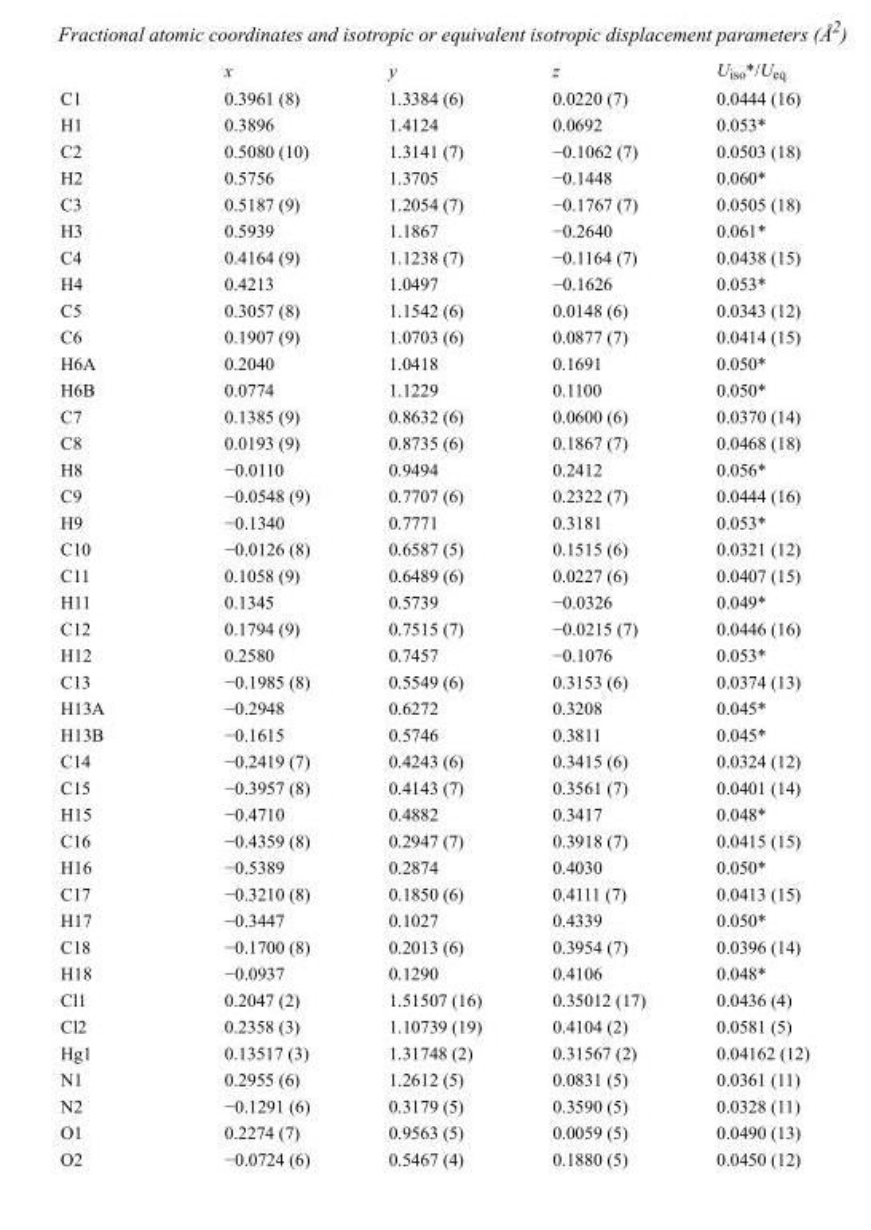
<table><thead><tr><td></td><td>x</td><td>y</td><td>z</td><td>U<sub>iso</sub>*/U<sub>eq</sub></td></tr></thead><tbody><tr><td>C1</td><td>0.3961 (8)</td><td>1.3384 (6)</td><td>0.0220 (7)</td><td>0.0444 (16)</td></tr><tr><td>H1</td><td>0.3896</td><td>1.4124</td><td>0.0692</td><td>0.053*</td></tr><tr><td>C2</td><td>0.5080 (10)</td><td>1.3141 (7)</td><td>−0.1062 (7)</td><td>0.0503 (18)</td></tr><tr><td>H2</td><td>0.5756</td><td>1.3705</td><td>−0.1448</td><td>0.060*</td></tr><tr><td>C3</td><td>0.5187 (9)</td><td>1.2054 (7)</td><td>−0.1767 (7)</td><td>0.0505 (18)</td></tr><tr><td>H3</td><td>0.5939</td><td>1.1867</td><td>−0.2640</td><td>0.061*</td></tr><tr><td>C4</td><td>0.4164 (9)</td><td>1.1238 (7)</td><td>−0.1164 (7)</td><td>0.0438 (15)</td></tr><tr><td>H4</td><td>0.4213</td><td>1.0497</td><td>−0.1626</td><td>0.053*</td></tr><tr><td>C5</td><td>0.3057 (8)</td><td>1.1542 (6)</td><td>0.0148 (6)</td><td>0.0343 (12)</td></tr><tr><td>C6</td><td>0.1907 (9)</td><td>1.0703 (6)</td><td>0.0877 (7)</td><td>0.0414 (15)</td></tr><tr><td>H6A</td><td>0.2040</td><td>1.0418</td><td>0.1691</td><td>0.050*</td></tr><tr><td>H6B</td><td>0.0774</td><td>1.1229</td><td>0.1100</td><td>0.050*</td></tr><tr><td>C7</td><td>0.1385 (9)</td><td>0.8632 (6)</td><td>0.0600 (6)</td><td>0.0370 (14)</td></tr><tr><td>C8</td><td>0.0193 (9)</td><td>0.8735 (6)</td><td>0.1867 (7)</td><td>0.0468 (18)</td></tr><tr><td>H8</td><td>−0.0110</td><td>0.9494</td><td>0.2412</td><td>0.056*</td></tr><tr><td>C9</td><td>−0.0548 (9)</td><td>0.7707 (6)</td><td>0.2322 (7)</td><td>0.0444 (16)</td></tr><tr><td>H9</td><td>−0.1340</td><td>0.7771</td><td>0.3181</td><td>0.053*</td></tr><tr><td>C10</td><td>−0.0126 (8)</td><td>0.6587 (5)</td><td>0.1515 (6)</td><td>0.0321 (12)</td></tr><tr><td>C11</td><td>0.1058 (9)</td><td>0.6489 (6)</td><td>0.0227 (6)</td><td>0.0407 (15)</td></tr><tr><td>H11</td><td>0.1345</td><td>0.5739</td><td>−0.0326</td><td>0.049*</td></tr><tr><td>C12</td><td>0.1794 (9)</td><td>0.7515 (7)</td><td>−0.0215 (7)</td><td>0.0446 (16)</td></tr><tr><td>H12</td><td>0.2580</td><td>0.7457</td><td>−0.1076</td><td>0.053*</td></tr><tr><td>C13</td><td>−0.1985 (8)</td><td>0.5549 (6)</td><td>0.3153 (6)</td><td>0.0374 (13)</td></tr><tr><td>H13A</td><td>−0.2948</td><td>0.6272</td><td>0.3208</td><td>0.045*</td></tr><tr><td>H13B</td><td>−0.1615</td><td>0.5746</td><td>0.3811</td><td>0.045*</td></tr><tr><td>C14</td><td>−0.2419 (7)</td><td>0.4243 (6)</td><td>0.3415 (6)</td><td>0.0324 (12)</td></tr><tr><td>C15</td><td>−0.3957 (8)</td><td>0.4143 (7)</td><td>0.3561 (7)</td><td>0.0401 (14)</td></tr><tr><td>H15</td><td>−0.4710</td><td>0.4882</td><td>0.3417</td><td>0.048*</td></tr><tr><td>C16</td><td>−0.4359 (8)</td><td>0.2947 (7)</td><td>0.3918 (7)</td><td>0.0415 (15)</td></tr><tr><td>H16</td><td>−0.5389</td><td>0.2874</td><td>0.4030</td><td>0.050*</td></tr><tr><td>C17</td><td>−0.3210 (8)</td><td>0.1850 (6)</td><td>0.4111 (7)</td><td>0.0413 (15)</td></tr><tr><td>H17</td><td>−0.3447</td><td>0.1027</td><td>0.4339</td><td>0.050*</td></tr><tr><td>C18</td><td>−0.1700 (8)</td><td>0.2013 (6)</td><td>0.3954 (7)</td><td>0.0396 (14)</td></tr><tr><td>H18</td><td>−0.0937</td><td>0.1290</td><td>0.4106</td><td>0.048*</td></tr><tr><td>Cl1</td><td>0.2047 (2)</td><td>1.51507 (16)</td><td>0.35012 (17)</td><td>0.0436 (4)</td></tr><tr><td>Cl2</td><td>0.2358 (3)</td><td>1.10739 (19)</td><td>0.4104 (2)</td><td>0.0581 (5)</td></tr><tr><td>Hg1</td><td>0.13517 (3)</td><td>1.31748 (2)</td><td>0.31567 (2)</td><td>0.04162 (12)</td></tr><tr><td>N1</td><td>0.2955 (6)</td><td>1.2612 (5)</td><td>0.0831 (5)</td><td>0.0361 (11)</td></tr><tr><td>N2</td><td>−0.1291 (6)</td><td>0.3179 (5)</td><td>0.3590 (5)</td><td>0.0328 (11)</td></tr><tr><td>O1</td><td>0.2274 (7)</td><td>0.9563 (5)</td><td>0.0059 (5)</td><td>0.0490 (13)</td></tr><tr><td>O2</td><td>−0.0724 (6)</td><td>0.5467 (4)</td><td>0.1880 (5)</td><td>0.0450 (12)</td></tr></tbody></table>